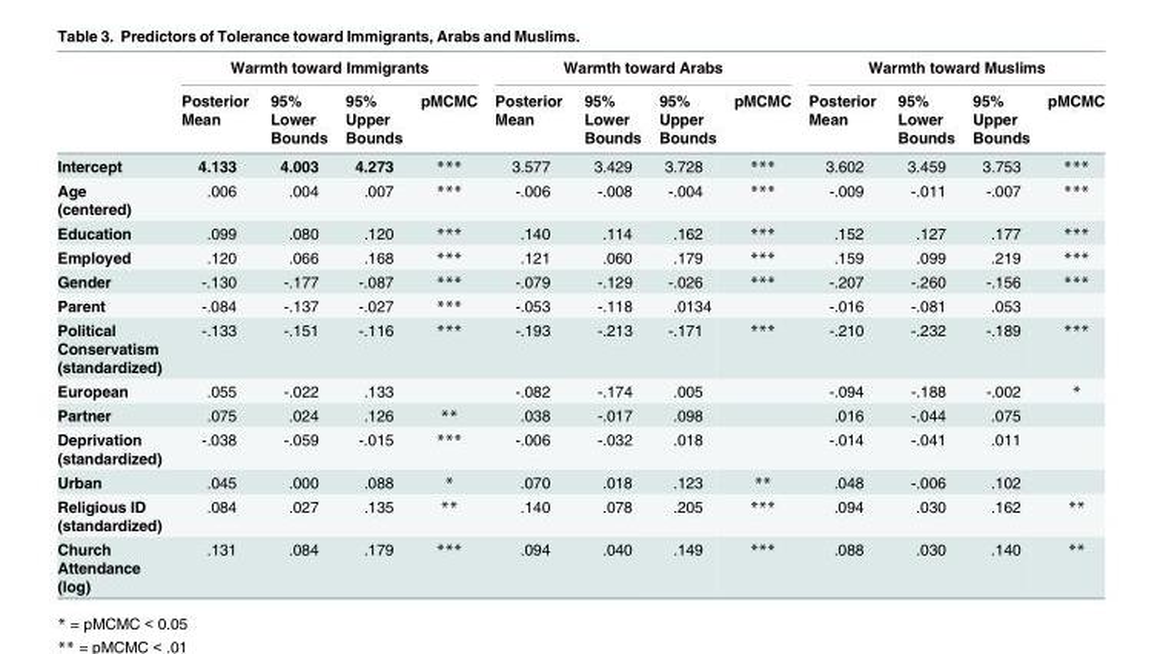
<table><thead><tr><td rowspan="2"></td><td colspan="4">Warmth toward Immigrants</td><td colspan="4">Warmth toward Arabs</td><td colspan="4">Warmth toward Muslims</td></tr><tr><td>Posterior Mean</td><td>95% Lower Bounds</td><td>95% Upper Bounds</td><td>pMCMC</td><td>Posterior Mean</td><td>95% Lower Bounds</td><td>95% Upper Bounds</td><td>pMCMC</td><td>Posterior Mean</td><td>95% Lower Bounds</td><td>95% Upper Bounds</td><td>pMCMC</td></tr></thead><tbody><tr><td>Intercept</td><td>4.133</td><td>4.003</td><td>4.273</td><td>***</td><td>3.577</td><td>3.429</td><td>3.728</td><td>***</td><td>3.602</td><td>3.459</td><td>3.753</td><td>***</td></tr><tr><td>Age (centered)</td><td>.006</td><td>.004</td><td>.007</td><td>***</td><td>-.006</td><td>-.008</td><td>-.004</td><td>***</td><td>-.009</td><td>-.011</td><td>-.007</td><td>***</td></tr><tr><td>Education</td><td>.099</td><td>.080</td><td>.120</td><td>***</td><td>.140</td><td>.114</td><td>.162</td><td>***</td><td>.152</td><td>.127</td><td>.177</td><td>***</td></tr><tr><td>Employed</td><td>.120</td><td>.066</td><td>.168</td><td>***</td><td>.121</td><td>.060</td><td>.179</td><td>***</td><td>.159</td><td>.099</td><td>.219</td><td>***</td></tr><tr><td>Gender</td><td>-.130</td><td>-.177</td><td>-.087</td><td>***</td><td>-.079</td><td>-.129</td><td>-.026</td><td>***</td><td>-.207</td><td>-.260</td><td>-.156</td><td>***</td></tr><tr><td>Parent</td><td>-.084</td><td>-.137</td><td>-.027</td><td>***</td><td>-.053</td><td>-.118</td><td>.0134</td><td></td><td>-.016</td><td>-.081</td><td>.053</td><td></td></tr><tr><td>Political Conservatism (standardized)</td><td>-.133</td><td>-.151</td><td>-.116</td><td>***</td><td>-.193</td><td>-.213</td><td>-.171</td><td>***</td><td>-.210</td><td>-.232</td><td>-.189</td><td>***</td></tr><tr><td>European</td><td>.055</td><td>-.022</td><td>.133</td><td></td><td>-.082</td><td>-.174</td><td>.005</td><td></td><td>-.094</td><td>-.188</td><td>-.002</td><td>*</td></tr><tr><td>Partner</td><td>.075</td><td>.024</td><td>.126</td><td>**</td><td>.038</td><td>-.017</td><td>.098</td><td></td><td>.016</td><td>-.044</td><td>.075</td><td></td></tr><tr><td>Deprivation (standardized)</td><td>-.038</td><td>-.059</td><td>-.015</td><td>***</td><td>-.006</td><td>-.032</td><td>.018</td><td></td><td>-.014</td><td>-.041</td><td>.011</td><td></td></tr><tr><td>Urban</td><td>.045</td><td>.000</td><td>.088</td><td>*</td><td>.070</td><td>.018</td><td>.123</td><td>**</td><td>.048</td><td>-.006</td><td>.102</td><td></td></tr><tr><td>Religious ID (standardized)</td><td>.084</td><td>.027</td><td>.135</td><td>**</td><td>.140</td><td>.078</td><td>.205</td><td>***</td><td>.094</td><td>.030</td><td>.162</td><td>**</td></tr><tr><td>Church Attendance (log)</td><td>.131</td><td>.084</td><td>.179</td><td>***</td><td>.094</td><td>.040</td><td>.149</td><td>***</td><td>.088</td><td>.030</td><td>.140</td><td>**</td></tr></tbody></table>